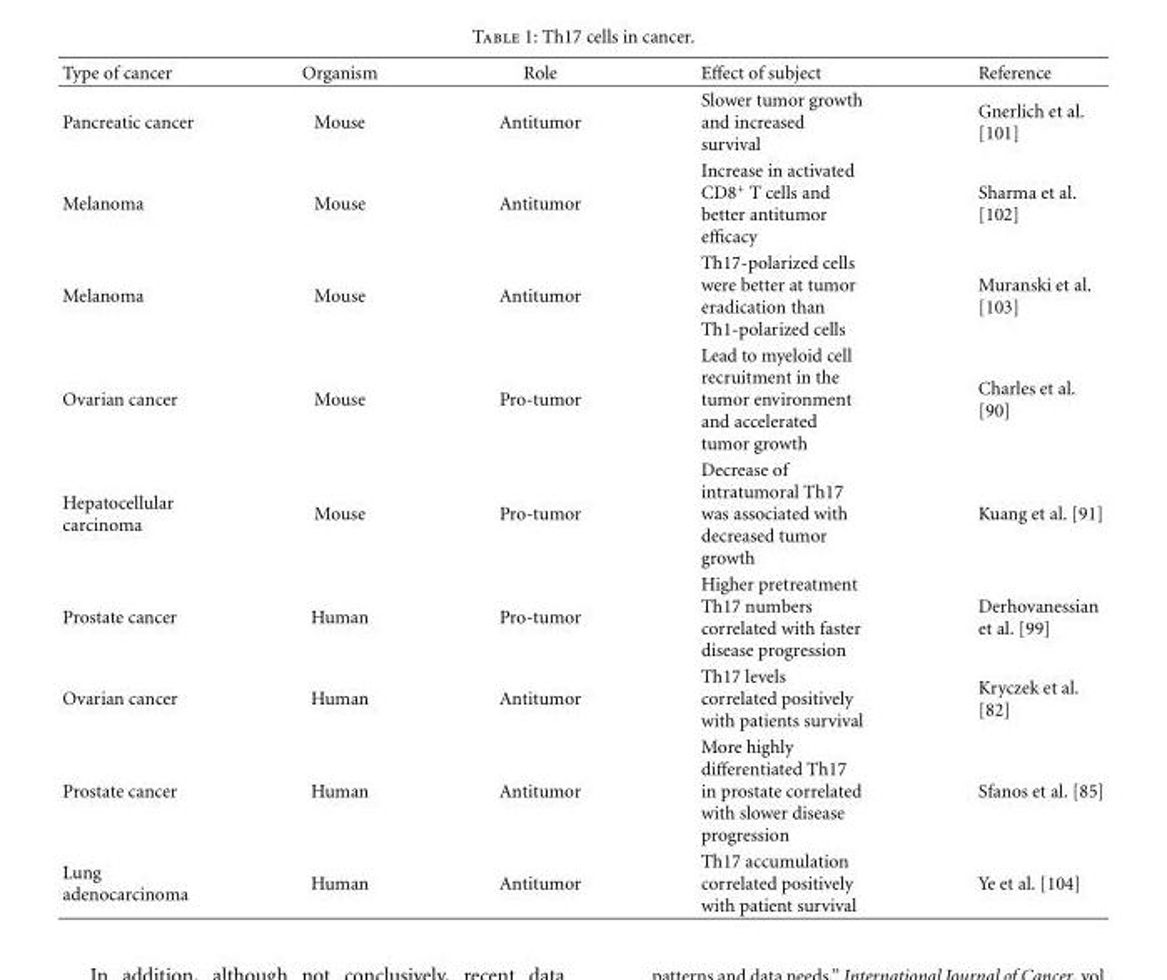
<table><thead><tr><td>Type of cancer</td><td>Organism</td><td>Role</td><td>Effect of subject</td><td>Reference</td></tr></thead><tbody><tr><td>Pancreatic cancer</td><td>Mouse</td><td>Antitumor</td><td>Slower tumor growth and increased survival</td><td>Gnerlich et al. [101]</td></tr><tr><td>Melanoma</td><td>Mouse</td><td>Antitumor</td><td>Increase in activated CD8<sup>+</sup> T cells and better antitumor efficacy</td><td>Sharma et al. [102]</td></tr><tr><td>Melanoma</td><td>Mouse</td><td>Antitumor</td><td>Th17-polarized cells were better at tumor eradication than Th1-polarized cells</td><td>Muranski et al. [103]</td></tr><tr><td>Ovarian cancer</td><td>Mouse</td><td>Pro-tumor</td><td>Lead to myeloid cell recruitment in the tumor environment and accelerated tumor growth</td><td>Charles et al. [90]</td></tr><tr><td>Hepatocellular carcinoma</td><td>Mouse</td><td>Pro-tumor</td><td>Decrease of intratumoral Th17 was associated with decreased tumor growth</td><td>Kuang et al. [91]</td></tr><tr><td>Prostate cancer</td><td>Human</td><td>Pro-tumor</td><td>Higher pretreatment Th17 numbers correlated with faster disease progression</td><td>Derhovanessian et al. [99]</td></tr><tr><td>Ovarian cancer</td><td>Human</td><td>Antitumor</td><td>Th17 levels correlated positively with patients survival</td><td>Kryczek et al. [82]</td></tr><tr><td>Prostate cancer</td><td>Human</td><td>Antitumor</td><td>More highly differentiated Th17 in prostate correlated with slower disease progression</td><td>Sfanos et al. [85]</td></tr><tr><td>Lung adenocarcinoma</td><td>Human</td><td>Antitumor</td><td>Th17 accumulation correlated positively with patient survival</td><td>Ye et al. [104]</td></tr></tbody></table>